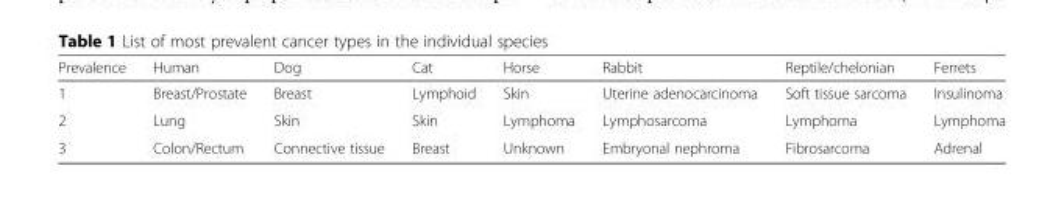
<table><thead><tr><td>Prevalence</td><td>Human</td><td>Dog</td><td>Cat</td><td>Horse</td><td>Rabbit</td><td>Reptile/chelonian</td><td>Ferrets</td></tr></thead><tbody><tr><td>1</td><td>Breast/Prostate</td><td>Breast</td><td>Lymphoid</td><td>Skin</td><td>Uterine adenocarcinoma</td><td>Soft tissue sarcoma</td><td>Insulinoma</td></tr><tr><td>2</td><td>Lung</td><td>Skin</td><td>Skin</td><td>Lymphoma</td><td>Lymphosarcoma</td><td>Lymphoma</td><td>Lymphoma</td></tr><tr><td>3</td><td>Colon/Rectum</td><td>Connective tissue</td><td>Breast</td><td>Unknown</td><td>Embryonal nephroma</td><td>Fibrosarcoma</td><td>Adrenal</td></tr></tbody></table>